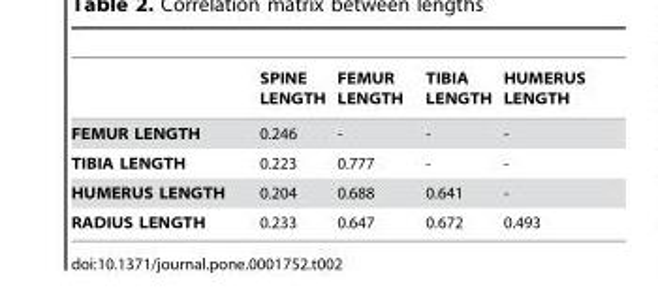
<table><thead><tr><td></td><td>SPINE LENGTH</td><td>FEMUR LENGTH</td><td>TIBIA LENGTH</td><td>HUMERUS LENGTH</td></tr></thead><tbody><tr><td>FEMUR LENGTH</td><td>0.246</td><td>-</td><td>-</td><td>-</td></tr><tr><td>TIBIA LENGTH</td><td>0.223</td><td>0.777</td><td>-</td><td>-</td></tr><tr><td>HUMERUS LENGTH</td><td>0.204</td><td>0.688</td><td>0.641</td><td>-</td></tr><tr><td>RADIUS LENGTH</td><td>0.233</td><td>0.647</td><td>0.672</td><td>0.493</td></tr></tbody></table>